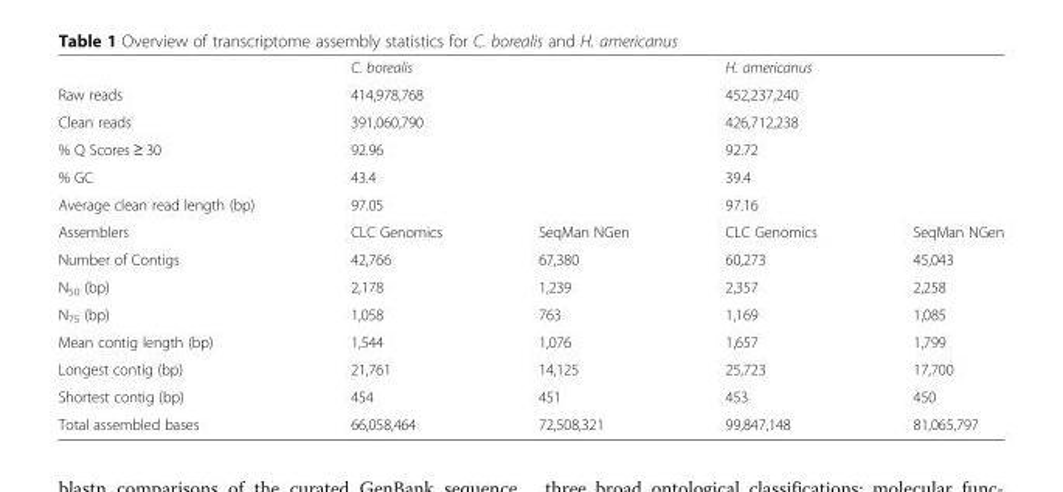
<table><thead><tr><td></td><td colspan="2">C. borealis</td><td colspan="2">H. americanus</td></tr></thead><tbody><tr><td>Raw reads</td><td colspan="2">414,978,768</td><td colspan="2">452,237,240</td></tr><tr><td>Clean reads</td><td colspan="2">391,060,790</td><td colspan="2">426,712,238</td></tr><tr><td>% Q Scores ≥ 30</td><td colspan="2">92.96</td><td colspan="2">92.72</td></tr><tr><td>% GC</td><td colspan="2">43.4</td><td colspan="2">39.4</td></tr><tr><td>Average clean read length (bp)</td><td colspan="2">97.05</td><td colspan="2">97.16</td></tr><tr><td>Assemblers</td><td>CLC Genomics</td><td>SeqMan NGen</td><td>CLC Genomics</td><td>SeqMan NGen</td></tr><tr><td>Number of Contigs</td><td>42,766</td><td>67,380</td><td>60,273</td><td>45,043</td></tr><tr><td>N<sub>50</sub> (bp)</td><td>2,178</td><td>1,239</td><td>2,357</td><td>2,258</td></tr><tr><td>N<sub>75</sub> (bp)</td><td>1,058</td><td>763</td><td>1,169</td><td>1,085</td></tr><tr><td>Mean contig length (bp)</td><td>1,544</td><td>1,076</td><td>1,657</td><td>1,799</td></tr><tr><td>Longest contig (bp)</td><td>21,761</td><td>14,125</td><td>25,723</td><td>17,700</td></tr><tr><td>Shortest contig (bp)</td><td>454</td><td>451</td><td>453</td><td>450</td></tr><tr><td>Total assembled bases</td><td>66,058,464</td><td>72,508,321</td><td>99,847,148</td><td>81,065,797</td></tr></tbody></table>